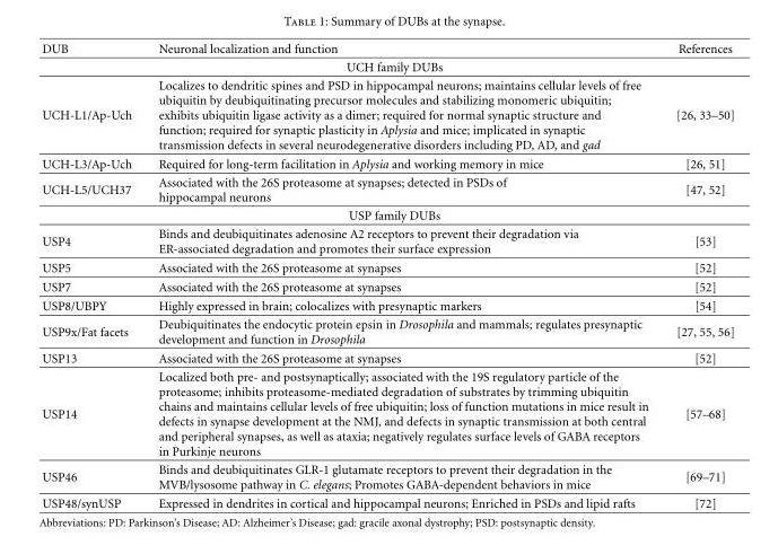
<table><thead><tr><td>DUB</td><td>Neuronal localization and function</td><td>References</td></tr></thead><tbody><tr><td colspan="3">UCH family DUBs</td></tr><tr><td>UCH-L1/Ap-Uch</td><td>Localizes to dendritic spines and PSD in hippocampal neurons; maintains cellular levels of free ubiquitin by deubiquitinating precursor molecules and stabilizing monomeric ubiquitin; exhibits ubiquitin ligase activity as a dimer; required for normal synaptic structure and function; required for synaptic plasticity in Aplysia and mice; implicated in synaptic transmission defects in several neurodegenerative disorders including PD, AD, and gad</td><td>[26, 33–50]</td></tr><tr><td>UCH-L3/Ap-Uch</td><td>Required for long-term facilitation in Aplysia and working memory in mice</td><td>[26, 51]</td></tr><tr><td>UCH-L5/UCH37</td><td>Associated with the 26S proteasome at synapses; detected in PSDs of hippocampal neurons</td><td>[47, 52]</td></tr><tr><td colspan="3">USP family DUBs</td></tr><tr><td>USP4</td><td>Binds and deubiquitinates adenosine A2 receptors to prevent their degradation via ER-associated degradation and promotes their surface expression</td><td>[53]</td></tr><tr><td>USP5</td><td>Associated with the 26S proteasome at synapses</td><td>[52]</td></tr><tr><td>USP7</td><td>Associated with the 26S proteasome at synapses</td><td>[52]</td></tr><tr><td>USP8/UBPY</td><td>Highly expressed in brain; colocalizes with presynaptic markers</td><td>[54]</td></tr><tr><td>USP9x/Fat facets</td><td>Deubiquitinates the endocytic protein epsin in Drosophila and mammals; regulates presynaptic development and function in Drosophila</td><td>[27, 55, 56]</td></tr><tr><td>USP13</td><td>Associated with the 26S proteasome at synapses</td><td>[52]</td></tr><tr><td>USP14</td><td>Localized both pre- and postsynaptically; associated with the 19S regulatory particle of the proteasome; inhibits proteasome-mediated degradation of substrates by trimming ubiquitin chains and maintains cellular levels of free ubiquitin; loss of function mutations in mice result in defects in synapse development at the NMJ, and defects in synaptic transmission at both central and peripheral synapses, as well as ataxia; negatively regulates surface levels of GABA receptors in Purkinje neurons</td><td>[57–68]</td></tr><tr><td>USP46</td><td>Binds and deubiquitinates GLR-1 glutamate receptors to prevent their degradation in the MVB/lysosome pathway in C. elegans; Promotes GABA-dependent behaviors in mice</td><td>[69–71]</td></tr><tr><td>USP48/synUSP</td><td>Expressed in dendrites in cortical and hippocampal neurons; Enriched in PSDs and lipid rafts</td><td>[72]</td></tr></tbody></table>